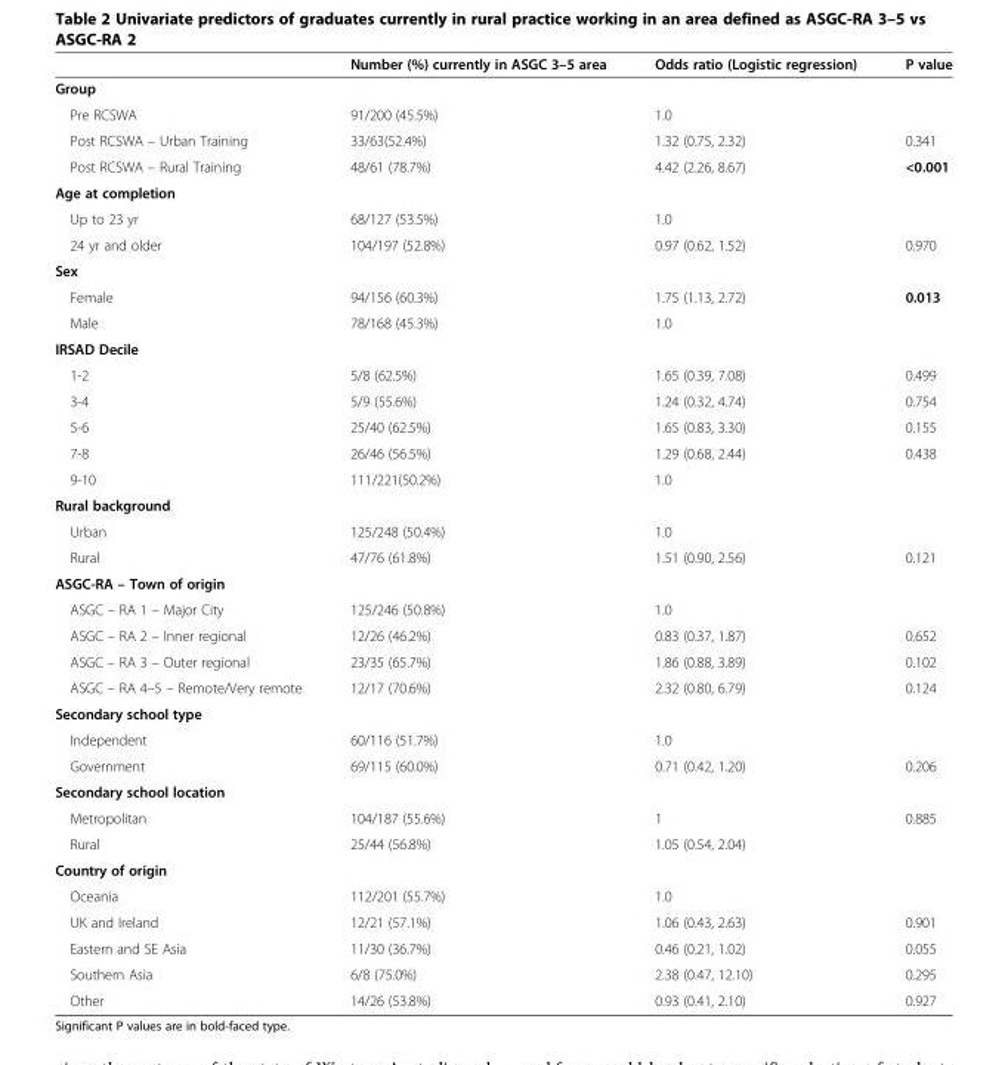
<table><thead><tr><td></td><td>Number (%) currently in ASGC 3–5 area</td><td>Odds ratio (Logistic regression)</td><td>P value</td></tr></thead><tbody><tr><td colspan="4">Group</td></tr><tr><td>Pre RCSWA</td><td>91/200 (45.5%)</td><td>1.0</td><td></td></tr><tr><td>Post RCSWA – Urban Training</td><td>33/63(52.4%)</td><td>1.32 (0.75, 2.32)</td><td>0.341</td></tr><tr><td>Post RCSWA – Rural Training</td><td>48/61 (78.7%)</td><td>4.42 (2.26, 8.67)</td><td>&lt;0.001</td></tr><tr><td colspan="4">Age at completion</td></tr><tr><td>Up to 23 yr</td><td>68/127 (53.5%)</td><td>1.0</td><td></td></tr><tr><td>24 yr and older</td><td>104/197 (52.8%)</td><td>0.97 (0.62, 1.52)</td><td>0.970</td></tr><tr><td colspan="4">Sex</td></tr><tr><td>Female</td><td>94/156 (60.3%)</td><td>1.75 (1.13, 2.72)</td><td>0.013</td></tr><tr><td>Male</td><td>78/168 (45.3%)</td><td>1.0</td><td></td></tr><tr><td colspan="4">IRSAD Decile</td></tr><tr><td>1-2</td><td>5/8 (62.5%)</td><td>1.65 (0.39, 7.08)</td><td>0.499</td></tr><tr><td>3-4</td><td>5/9 (55.6%)</td><td>1.24 (0.32, 4.74)</td><td>0.754</td></tr><tr><td>5-6</td><td>25/40 (62.5%)</td><td>1.65 (0.83, 3.30)</td><td>0.155</td></tr><tr><td>7-8</td><td>26/46 (56.5%)</td><td>1.29 (0.68, 2.44)</td><td>0.438</td></tr><tr><td>9-10</td><td>111/221(50.2%)</td><td>1.0</td><td></td></tr><tr><td colspan="4">Rural background</td></tr><tr><td>Urban</td><td>125/248 (50.4%)</td><td>1.0</td><td></td></tr><tr><td>Rural</td><td>47/76 (61.8%)</td><td>1.51 (0.90, 2.56)</td><td>0.121</td></tr><tr><td colspan="4">ASGC-RA – Town of origin</td></tr><tr><td>ASGC – RA 1 – Major City</td><td>125/246 (50.8%)</td><td>1.0</td><td></td></tr><tr><td>ASGC – RA 2 – Inner regional</td><td>12/26 (46.2%)</td><td>0.83 (0.37, 1.87)</td><td>0.652</td></tr><tr><td>ASGC – RA 3 – Outer regional</td><td>23/35 (65.7%)</td><td>1.86 (0.88, 3.89)</td><td>0.102</td></tr><tr><td>ASGC – RA 4–5 – Remote/Very remote</td><td>12/17 (70.6%)</td><td>2.32 (0.80, 6.79)</td><td>0.124</td></tr><tr><td colspan="4">Secondary school type</td></tr><tr><td>Independent</td><td>60/116 (51.7%)</td><td>1.0</td><td></td></tr><tr><td>Government</td><td>69/115 (60.0%)</td><td>0.71 (0.42, 1.20)</td><td>0.206</td></tr><tr><td colspan="4">Secondary school location</td></tr><tr><td>Metropolitan</td><td>104/187 (55.6%)</td><td>1</td><td>0.885</td></tr><tr><td>Rural</td><td>25/44 (56.8%)</td><td>1.05 (0.54, 2.04)</td><td></td></tr><tr><td colspan="4">Country of origin</td></tr><tr><td>Oceania</td><td>112/201 (55.7%)</td><td>1.0</td><td></td></tr><tr><td>UK and Ireland</td><td>12/21 (57.1%)</td><td>1.06 (0.43, 2.63)</td><td>0.901</td></tr><tr><td>Eastern and SE Asia</td><td>11/30 (36.7%)</td><td>0.46 (0.21, 1.02)</td><td>0.055</td></tr><tr><td>Southern Asia</td><td>6/8 (75.0%)</td><td>2.38 (0.47, 12.10)</td><td>0.295</td></tr><tr><td>Other</td><td>14/26 (53.8%)</td><td>0.93 (0.41, 2.10)</td><td>0.927</td></tr></tbody></table>